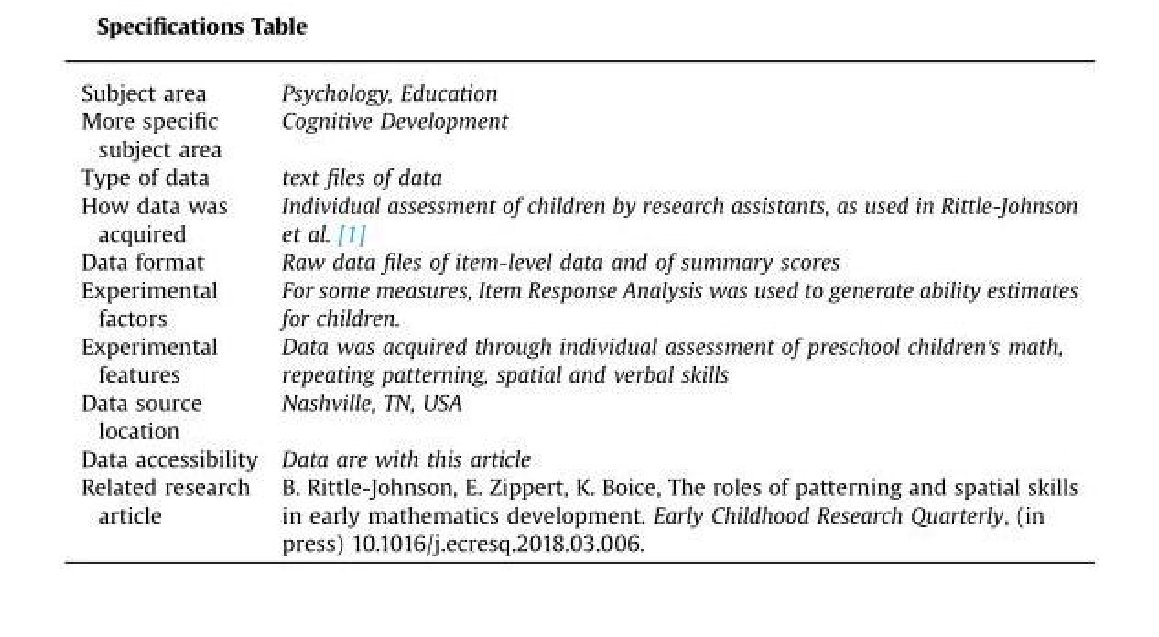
<table><tbody><tr><td>Subject area</td><td>Psychology, Education</td></tr><tr><td>More specific subject area</td><td>Cognitive Development</td></tr><tr><td>Type of data</td><td>text files of data</td></tr><tr><td>How data was acquired</td><td>Individual assessment of children by research assistants, as used in Rittle-Johnson et al. [1]</td></tr><tr><td>Data format</td><td>Raw data files of item-level data and of summary scores</td></tr><tr><td>Experimental factors</td><td>For some measures, Item Response Analysis was used to generate ability estimates for children.</td></tr><tr><td>Experimental features</td><td>Data was acquired through individual assessment of preschool children&#x27;s math, repeating patterning, spatial and verbal skills</td></tr><tr><td>Data source location</td><td>Nashville, TN, USA</td></tr><tr><td>Data accessibility</td><td>Data are with this article</td></tr><tr><td>Related research article</td><td>B. Rittle-Johnson, E. Zippert, K. Boice, The roles of patterning and spatial skills in early mathematics development. Early Childhood Research Quarterly, (in press) 10.1016/j.ecresq.2018.03.006.</td></tr></tbody></table>